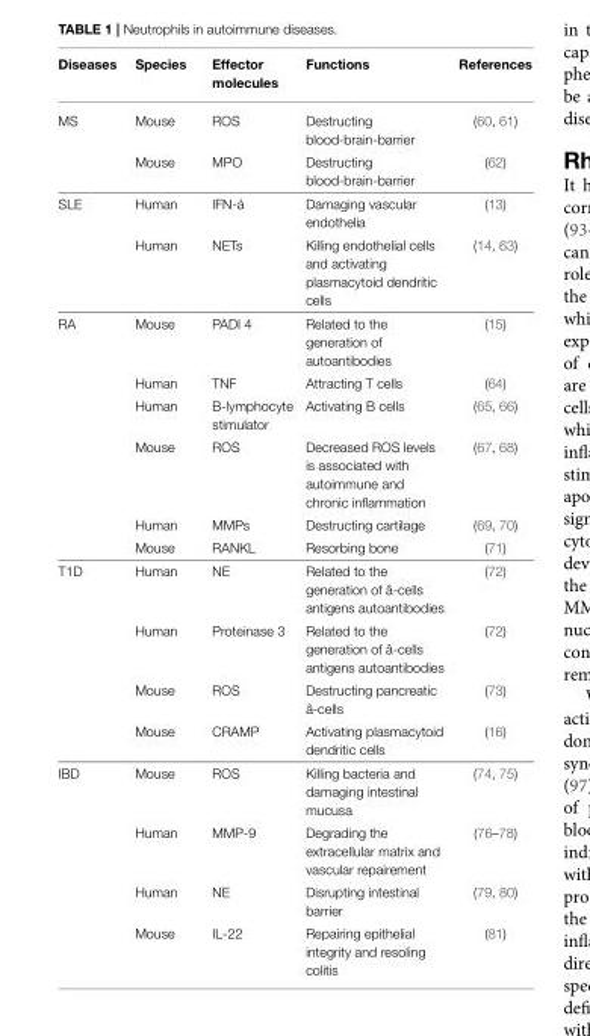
<table><thead><tr><td>Diseases</td><td>Species</td><td>Effector molecules</td><td>Functions</td><td>References</td></tr></thead><tbody><tr><td rowspan="2">MS</td><td>Mouse</td><td>ROS</td><td>Destructing blood-brain-barrier</td><td>(60, 61)</td></tr><tr><td>Mouse</td><td>MPO</td><td>Destructing blood-brain-barrier</td><td>(62)</td></tr><tr><td rowspan="2">SLE</td><td>Human</td><td>IFN-á</td><td>Damaging vascular endothelia</td><td>(13)</td></tr><tr><td>Human</td><td>NETs</td><td>Killing endothelial cells and activating plasmacytoid dendritic cells</td><td>(14, 63)</td></tr><tr><td rowspan="6">RA</td><td>Mouse</td><td>PADI 4</td><td>Related to the generation of autoantibodies</td><td>(15)</td></tr><tr><td>Human</td><td>TNF</td><td>Attracting T cells</td><td>(64)</td></tr><tr><td>Human</td><td>B-lymphocyte stimulator</td><td>Activating B cells</td><td>(65, 66)</td></tr><tr><td>Mouse</td><td>ROS</td><td>Decreased ROS levels is associated with autoimmune and chronic inflammation</td><td>(67, 68)</td></tr><tr><td>Human</td><td>MMPs</td><td>Destructing cartilage</td><td>(69, 70)</td></tr><tr><td>Mouse</td><td>RANKL</td><td>Resorbing bone</td><td>(71)</td></tr><tr><td rowspan="4">T1D</td><td>Human</td><td>NE</td><td>Related to the generation of â-cells antigens autoantibodies</td><td>(72)</td></tr><tr><td>Human</td><td>Proteinase 3</td><td>Related to the generation of â-cells antigens autoantibodies</td><td>(72)</td></tr><tr><td>Mouse</td><td>ROS</td><td>Destructing pancreatic â-cells</td><td>(73)</td></tr><tr><td>Mouse</td><td>CRAMP</td><td>Activating plasmacytoid dendritic cells</td><td>(16)</td></tr><tr><td rowspan="4">IBD</td><td>Mouse</td><td>ROS</td><td>Killing bacteria and damaging intestinal mucusa</td><td>(74, 75)</td></tr><tr><td>Human</td><td>MMP-9</td><td>Degrading the extracellular matrix and vascular repairement</td><td>(76–78)</td></tr><tr><td>Human</td><td>NE</td><td>Disrupting intestinal barrier</td><td>(79, 80)</td></tr><tr><td>Mouse</td><td>IL-22</td><td>Repairing epithelial integrity and resoling colitis</td><td>(81)</td></tr></tbody></table>